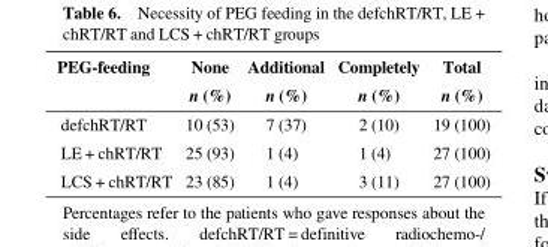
<table><thead><tr><td rowspan="2">PEG-feeding</td><td rowspan="2">None n (%)</td><td rowspan="2">Additional n (%)</td><td rowspan="2">Completely n (%)</td><td rowspan="2">Total n (%)</td></tr><tr></tr></thead><tbody><tr><td>defchRT/RT</td><td>10 (53)</td><td>7 (37)</td><td>2 (10)</td><td>19 (100)</td></tr><tr><td>LE + chRT/RT</td><td>25 (93)</td><td>1 (4)</td><td>1 (4)</td><td>27 (100)</td></tr><tr><td>LCS + chRT/RT</td><td>23 (85)</td><td>1 (4)</td><td>3 (11)</td><td>27 (100)</td></tr></tbody></table>